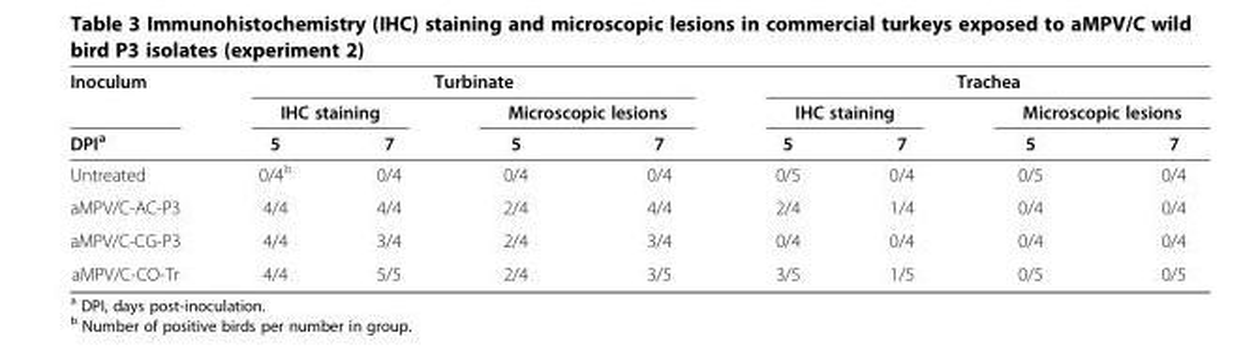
<table><thead><tr><td rowspan="3">Inoculum DPI<sup>a</sup></td><td colspan="4">Turbinate</td><td colspan="4">Trachea</td></tr><tr><td colspan="2">IHC staining</td><td colspan="2">Microscopic lesions</td><td colspan="2">IHC staining</td><td colspan="2">Microscopic lesions</td></tr><tr><td>5</td><td>7</td><td>5</td><td>7</td><td>5</td><td>7</td><td>5</td><td>7</td></tr></thead><tbody><tr><td>Untreated</td><td>0/4<sup>b</sup></td><td>0/4</td><td>0/4</td><td>0/4</td><td>0/5</td><td>0/4</td><td>0/5</td><td>0/4</td></tr><tr><td>aMPV/C-AC-P3</td><td>4/4</td><td>4/4</td><td>2/4</td><td>4/4</td><td>2/4</td><td>1/4</td><td>0/4</td><td>0/4</td></tr><tr><td>aMPV/C-CG-P3</td><td>4/4</td><td>3/4</td><td>2/4</td><td>3/4</td><td>0/4</td><td>0/4</td><td>0/4</td><td>0/4</td></tr><tr><td>aMPV/C-CO-Tr</td><td>4/4</td><td>5/5</td><td>2/4</td><td>3/5</td><td>3/5</td><td>1/5</td><td>0/5</td><td>0/5</td></tr></tbody></table>